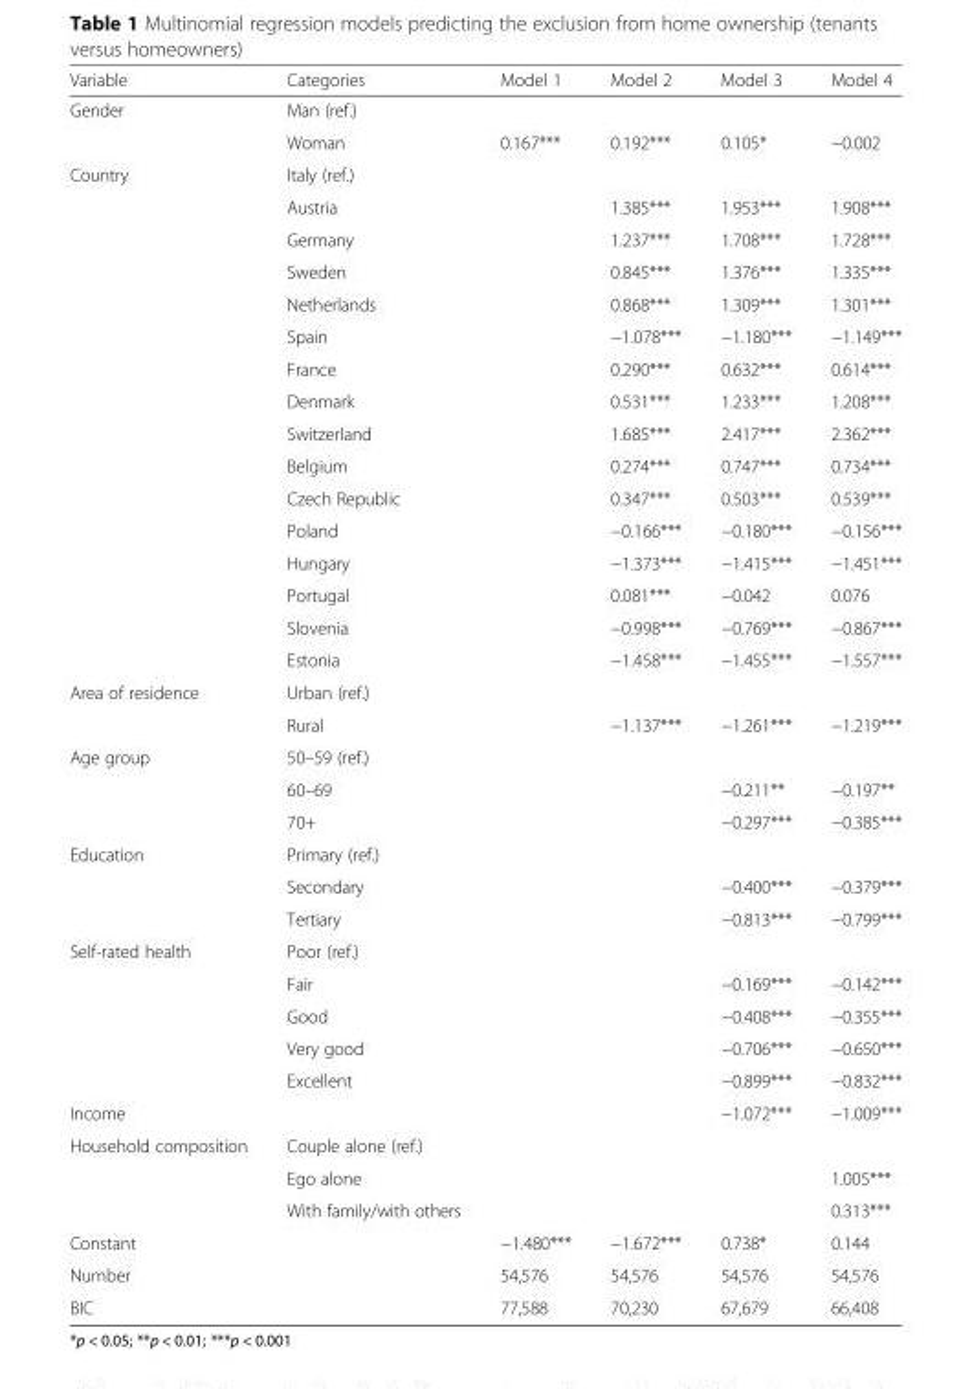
<table><thead><tr><td>Variable</td><td>Categories</td><td>Model 1</td><td>Model 2</td><td>Model 3</td><td>Model 4</td></tr></thead><tbody><tr><td rowspan="2">Gender</td><td>Man (ref.)</td><td></td><td></td><td></td><td></td></tr><tr><td>Woman</td><td>0.167***</td><td>0.192***</td><td>0.105*</td><td>−0.002</td></tr><tr><td rowspan="16">Country</td><td>Italy (ref.)</td><td></td><td></td><td></td><td></td></tr><tr><td>Austria</td><td></td><td>1.385***</td><td>1.953***</td><td>1.908***</td></tr><tr><td>Germany</td><td></td><td>1.237***</td><td>1.708***</td><td>1.728***</td></tr><tr><td>Sweden</td><td></td><td>0.845***</td><td>1.376***</td><td>1.335***</td></tr><tr><td>Netherlands</td><td></td><td>0.868***</td><td>1.309***</td><td>1.301***</td></tr><tr><td>Spain</td><td></td><td>−1.078***</td><td>−1.180***</td><td>−1.149***</td></tr><tr><td>France</td><td></td><td>0.290***</td><td>0.632***</td><td>0.614***</td></tr><tr><td>Denmark</td><td></td><td>0.531***</td><td>1.233***</td><td>1.208***</td></tr><tr><td>Switzerland</td><td></td><td>1.685***</td><td>2.417***</td><td>2.362***</td></tr><tr><td>Belgium</td><td></td><td>0.274***</td><td>0.747***</td><td>0.734***</td></tr><tr><td>Czech Republic</td><td></td><td>0.347***</td><td>0.503***</td><td>0.539***</td></tr><tr><td>Poland</td><td></td><td>−0.166***</td><td>−0.180***</td><td>−0.156***</td></tr><tr><td>Hungary</td><td></td><td>−1.373***</td><td>−1.415***</td><td>−1.451***</td></tr><tr><td>Portugal</td><td></td><td>0.081***</td><td>−0.042</td><td>0.076</td></tr><tr><td>Slovenia</td><td></td><td>−0.998***</td><td>−0.769***</td><td>−0.867***</td></tr><tr><td>Estonia</td><td></td><td>−1.458***</td><td>−1.455***</td><td>−1.557***</td></tr><tr><td rowspan="2">Area of residence</td><td>Urban (ref.)</td><td></td><td></td><td></td><td></td></tr><tr><td>Rural</td><td></td><td>−1.137***</td><td>−1.261***</td><td>−1.219***</td></tr><tr><td rowspan="3">Age group</td><td>50–59 (ref.)</td><td></td><td></td><td></td><td></td></tr><tr><td>60–69</td><td></td><td></td><td>−0.211**</td><td>−0.197**</td></tr><tr><td>70+</td><td></td><td></td><td>−0.297***</td><td>−0.385***</td></tr><tr><td rowspan="3">Education</td><td>Primary (ref.)</td><td></td><td></td><td></td><td></td></tr><tr><td>Secondary</td><td></td><td></td><td>−0.400***</td><td>−0.379***</td></tr><tr><td>Tertiary</td><td></td><td></td><td>−0.813***</td><td>−0.799***</td></tr><tr><td rowspan="5">Self-rated health</td><td>Poor (ref.)</td><td></td><td></td><td></td><td></td></tr><tr><td>Fair</td><td></td><td></td><td>−0.169***</td><td>−0.142***</td></tr><tr><td>Good</td><td></td><td></td><td>−0.408***</td><td>−0.355***</td></tr><tr><td>Very good</td><td></td><td></td><td>−0.706***</td><td>−0.650***</td></tr><tr><td>Excellent</td><td></td><td></td><td>−0.899***</td><td>−0.832***</td></tr><tr><td>Income</td><td></td><td></td><td></td><td>−1.072***</td><td>−1.009***</td></tr><tr><td rowspan="3">Household composition</td><td>Couple alone (ref.)</td><td></td><td></td><td></td><td></td></tr><tr><td>Ego alone</td><td></td><td></td><td></td><td>1.005***</td></tr><tr><td>With family/with others</td><td></td><td></td><td></td><td>0.313***</td></tr><tr><td>Constant</td><td></td><td>−1.480***</td><td>−1.672***</td><td>0.738*</td><td>0.144</td></tr><tr><td>Number</td><td></td><td>54,576</td><td>54,576</td><td>54,576</td><td>54,576</td></tr><tr><td>BIC</td><td></td><td>77,588</td><td>70,230</td><td>67,679</td><td>66,408</td></tr></tbody></table>